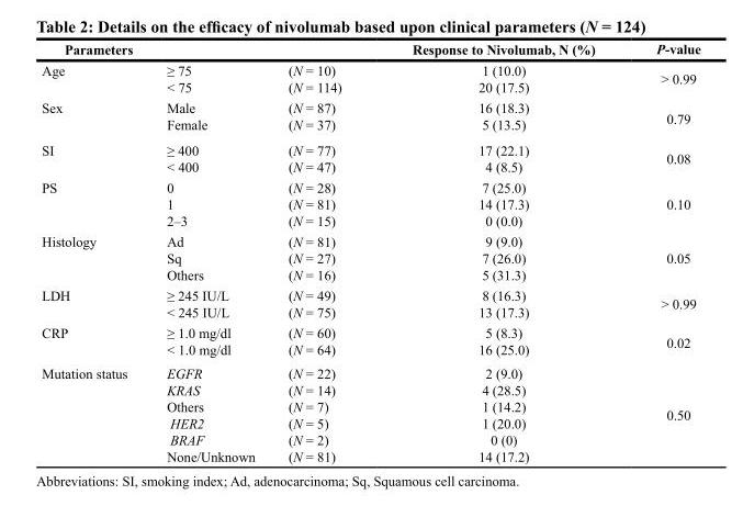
<table><thead><tr><td>Parameters</td><td></td><td></td><td>Response to Nivolumab, N (%)</td><td>P-value</td></tr></thead><tbody><tr><td>Age</td><td>≥ 75 &lt; 75</td><td>(N = 10) (N = 114)</td><td>1 (10.0) 20 (17.5)</td><td>&gt; 0.99</td></tr><tr><td>Sex</td><td>Male Female</td><td>(N = 87) (N = 37)</td><td>16 (18.3) 5 (13.5)</td><td>0.79</td></tr><tr><td>SI</td><td>≥ 400 &lt; 400</td><td>(N = 77) (N = 47)</td><td>17 (22.1) 4 (8.5)</td><td>0.08</td></tr><tr><td>PS</td><td>0 1 2–3</td><td>(N = 28) (N = 81) (N = 15)</td><td>7 (25.0) 14 (17.3) 0 (0.0)</td><td>0.10</td></tr><tr><td>Histology</td><td>Ad Sq Others</td><td>(N = 81) (N = 27) (N = 16)</td><td>9 (9.0) 7 (26.0) 5 (31.3)</td><td>0.05</td></tr><tr><td>LDH</td><td>≥ 245 IU/L &lt; 245 IU/L</td><td>(N = 49) (N = 75)</td><td>8 (16.3) 13 (17.3)</td><td>&gt; 0.99</td></tr><tr><td>CRP</td><td>≥ 1.0 mg/dl &lt; 1.0 mg/dl</td><td>(N = 60) (N = 64)</td><td>5 (8.3) 16 (25.0)</td><td>0.02</td></tr><tr><td>Mutation status</td><td>EGFR KRAS Others HER2 BRAF None/Unknown</td><td>(N = 22) (N = 14) (N = 7) (N = 5) (N = 2) (N = 81)</td><td>2 (9.0) 4 (28.5) 1 (14.2) 1 (20.0) 0 (0) 14 (17.2)</td><td>0.50</td></tr></tbody></table>